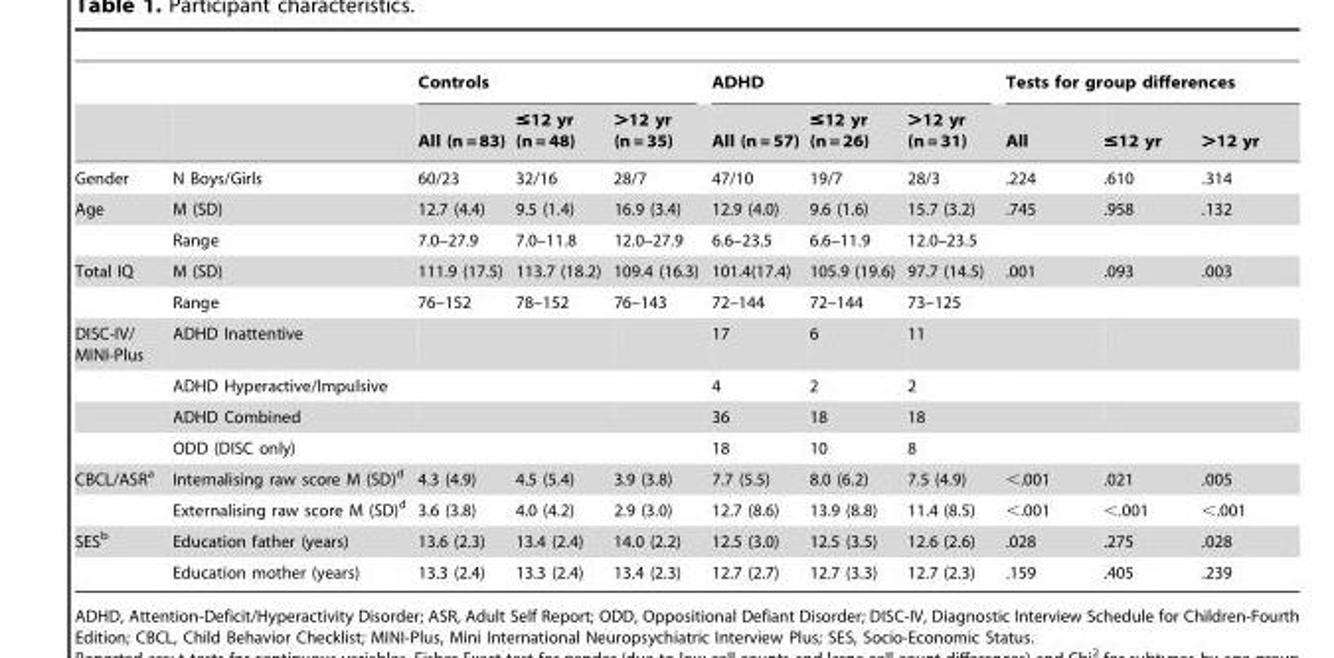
<table><thead><tr><td rowspan="2"></td><td rowspan="2"></td><td colspan="3">Controls</td><td colspan="3">ADHD</td><td colspan="3">Tests for group differences</td></tr><tr><td>All (n = 83)</td><td>≤12 yr (n = 48)</td><td>&gt;12 yr (n = 35)</td><td>All (n = 57)</td><td>≤12 yr (n = 26)</td><td>&gt;12 yr (n = 31)</td><td>All</td><td>≤12 yr</td><td>&gt;12 yr</td></tr></thead><tbody><tr><td>Gender</td><td>N Boys/Girls</td><td>60/23</td><td>32/16</td><td>28/7</td><td>47/10</td><td>19/7</td><td>28/3</td><td>.224</td><td>.610</td><td>.314</td></tr><tr><td rowspan="2">Age</td><td>M (SD)</td><td>12.7 (4.4)</td><td>9.5 (1.4)</td><td>16.9 (3.4)</td><td>12.9 (4.0)</td><td>9.6 (1.6)</td><td>15.7 (3.2)</td><td>.745</td><td>.958</td><td>.132</td></tr><tr><td>Range</td><td>7.0–27.9</td><td>7.0–11.8</td><td>12.0–27.9</td><td>6.6–23.5</td><td>6.6–11.9</td><td>12.0–23.5</td><td></td><td></td><td></td></tr><tr><td rowspan="2">Total IQ</td><td>M (SD)</td><td>111.9 (17.5)</td><td>113.7 (18.2)</td><td>109.4 (16.3)</td><td>101.4(17.4)</td><td>105.9 (19.6)</td><td>97.7 (14.5)</td><td>.001</td><td>.093</td><td>.003</td></tr><tr><td>Range</td><td>76–152</td><td>78–152</td><td>76–143</td><td>72–144</td><td>72–144</td><td>73–125</td><td></td><td></td><td></td></tr><tr><td rowspan="4">DISC-IV/ MINI-Plus</td><td>ADHD Inattentive</td><td></td><td></td><td></td><td>17</td><td>6</td><td>11</td><td></td><td></td><td></td></tr><tr><td>ADHD Hyperactive/Impulsive</td><td></td><td></td><td></td><td>4</td><td>2</td><td>2</td><td></td><td></td><td></td></tr><tr><td>ADHD Combined</td><td></td><td></td><td></td><td>36</td><td>18</td><td>18</td><td></td><td></td><td></td></tr><tr><td>ODD (DISC only)</td><td></td><td></td><td></td><td>18</td><td>10</td><td>8</td><td></td><td></td><td></td></tr><tr><td rowspan="2">CBCL/ASR<sup>a</sup></td><td>Internalising raw score M (SD)<sup>d</sup></td><td>4.3 (4.9)</td><td>4.5 (5.4)</td><td>3.9 (3.8)</td><td>7.7 (5.5)</td><td>8.0 (6.2)</td><td>7.5 (4.9)</td><td>&lt;.001</td><td>.021</td><td>.005</td></tr><tr><td>Externalising raw score M (SD)<sup>d</sup></td><td>3.6 (3.8)</td><td>4.0 (4.2)</td><td>2.9 (3.0)</td><td>12.7 (8.6)</td><td>13.9 (8.8)</td><td>11.4 (8.5)</td><td>&lt;.001</td><td>&lt;.001</td><td>&lt;.001</td></tr><tr><td rowspan="2">SES<sup>b</sup></td><td>Education father (years)</td><td>13.6 (2.3)</td><td>13.4 (2.4)</td><td>14.0 (2.2)</td><td>12.5 (3.0)</td><td>12.5 (3.5)</td><td>12.6 (2.6)</td><td>.028</td><td>.275</td><td>.028</td></tr><tr><td>Education mother (years)</td><td>13.3 (2.4)</td><td>13.3 (2.4)</td><td>13.4 (2.3)</td><td>12.7 (2.7)</td><td>12.7 (3.3)</td><td>12.7 (2.3)</td><td>.159</td><td>.405</td><td>.239</td></tr></tbody></table>